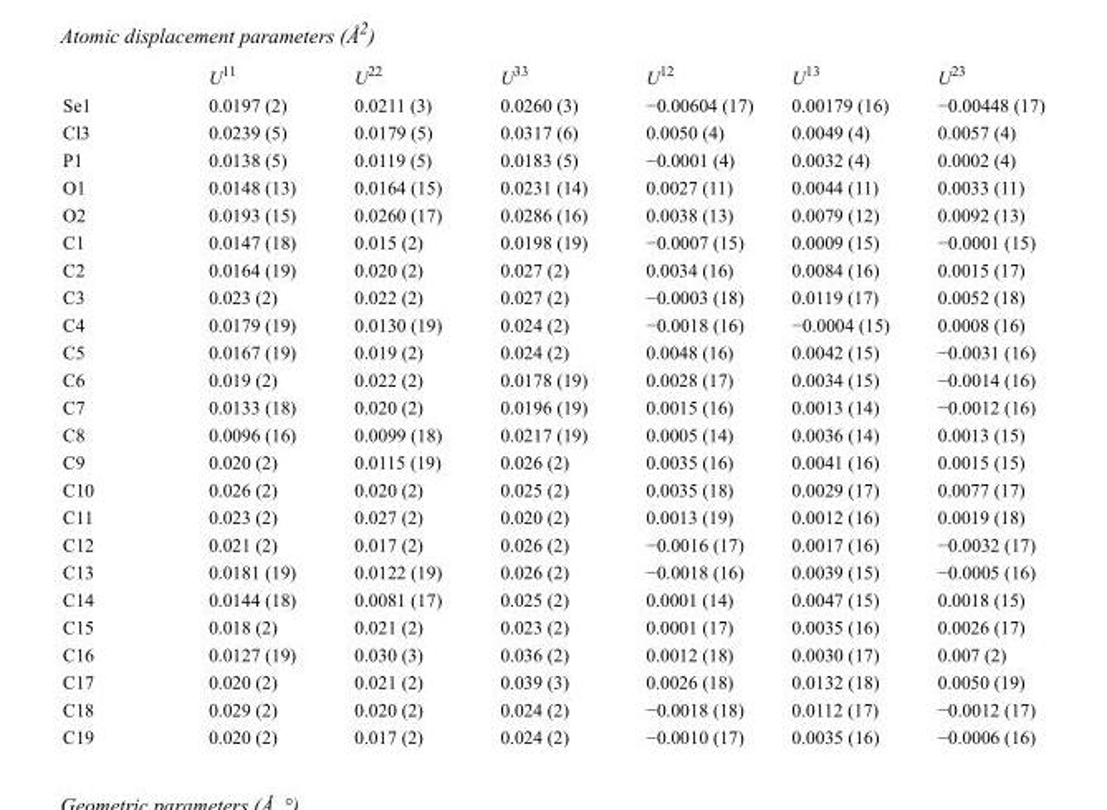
<table><thead><tr><td></td><td>U<sup>11</sup></td><td>U<sup>22</sup></td><td>U<sup>33</sup></td><td>U<sup>12</sup></td><td>U<sup>13</sup></td><td>U<sup>23</sup></td></tr></thead><tbody><tr><td>Se1</td><td>0.0197 (2)</td><td>0.0211 (3)</td><td>0.0260 (3)</td><td>−0.00604 (17)</td><td>0.00179 (16)</td><td>−0.00448 (17)</td></tr><tr><td>Cl3</td><td>0.0239 (5)</td><td>0.0179 (5)</td><td>0.0317 (6)</td><td>0.0050 (4)</td><td>0.0049 (4)</td><td>0.0057 (4)</td></tr><tr><td>P1</td><td>0.0138 (5)</td><td>0.0119 (5)</td><td>0.0183 (5)</td><td>−0.0001 (4)</td><td>0.0032 (4)</td><td>0.0002 (4)</td></tr><tr><td>O1</td><td>0.0148 (13)</td><td>0.0164 (15)</td><td>0.0231 (14)</td><td>0.0027 (11)</td><td>0.0044 (11)</td><td>0.0033 (11)</td></tr><tr><td>O2</td><td>0.0193 (15)</td><td>0.0260 (17)</td><td>0.0286 (16)</td><td>0.0038 (13)</td><td>0.0079 (12)</td><td>0.0092 (13)</td></tr><tr><td>C1</td><td>0.0147 (18)</td><td>0.015 (2)</td><td>0.0198 (19)</td><td>−0.0007 (15)</td><td>0.0009 (15)</td><td>−0.0001 (15)</td></tr><tr><td>C2</td><td>0.0164 (19)</td><td>0.020 (2)</td><td>0.027 (2)</td><td>0.0034 (16)</td><td>0.0084 (16)</td><td>0.0015 (17)</td></tr><tr><td>C3</td><td>0.023 (2)</td><td>0.022 (2)</td><td>0.027 (2)</td><td>−0.0003 (18)</td><td>0.0119 (17)</td><td>0.0052 (18)</td></tr><tr><td>C4</td><td>0.0179 (19)</td><td>0.0130 (19)</td><td>0.024 (2)</td><td>−0.0018 (16)</td><td>−0.0004 (15)</td><td>0.0008 (16)</td></tr><tr><td>C5</td><td>0.0167 (19)</td><td>0.019 (2)</td><td>0.024 (2)</td><td>0.0048 (16)</td><td>0.0042 (15)</td><td>−0.0031 (16)</td></tr><tr><td>C6</td><td>0.019 (2)</td><td>0.022 (2)</td><td>0.0178 (19)</td><td>0.0028 (17)</td><td>0.0034 (15)</td><td>−0.0014 (16)</td></tr><tr><td>C7</td><td>0.0133 (18)</td><td>0.020 (2)</td><td>0.0196 (19)</td><td>0.0015 (16)</td><td>0.0013 (14)</td><td>−0.0012 (16)</td></tr><tr><td>C8</td><td>0.0096 (16)</td><td>0.0099 (18)</td><td>0.0217 (19)</td><td>0.0005 (14)</td><td>0.0036 (14)</td><td>0.0013 (15)</td></tr><tr><td>C9</td><td>0.020 (2)</td><td>0.0115 (19)</td><td>0.026 (2)</td><td>0.0035 (16)</td><td>0.0041 (16)</td><td>0.0015 (15)</td></tr><tr><td>C10</td><td>0.026 (2)</td><td>0.020 (2)</td><td>0.025 (2)</td><td>0.0035 (18)</td><td>0.0029 (17)</td><td>0.0077 (17)</td></tr><tr><td>C11</td><td>0.023 (2)</td><td>0.027 (2)</td><td>0.020 (2)</td><td>0.0013 (19)</td><td>0.0012 (16)</td><td>0.0019 (18)</td></tr><tr><td>C12</td><td>0.021 (2)</td><td>0.017 (2)</td><td>0.026 (2)</td><td>−0.0016 (17)</td><td>0.0017 (16)</td><td>−0.0032 (17)</td></tr><tr><td>C13</td><td>0.0181 (19)</td><td>0.0122 (19)</td><td>0.026 (2)</td><td>−0.0018 (16)</td><td>0.0039 (15)</td><td>−0.0005 (16)</td></tr><tr><td>C14</td><td>0.0144 (18)</td><td>0.0081 (17)</td><td>0.025 (2)</td><td>0.0001 (14)</td><td>0.0047 (15)</td><td>0.0018 (15)</td></tr><tr><td>C15</td><td>0.018 (2)</td><td>0.021 (2)</td><td>0.023 (2)</td><td>0.0001 (17)</td><td>0.0035 (16)</td><td>0.0026 (17)</td></tr><tr><td>C16</td><td>0.0127 (19)</td><td>0.030 (3)</td><td>0.036 (2)</td><td>0.0012 (18)</td><td>0.0030 (17)</td><td>0.007 (2)</td></tr><tr><td>C17</td><td>0.020 (2)</td><td>0.021 (2)</td><td>0.039 (3)</td><td>0.0026 (18)</td><td>0.0132 (18)</td><td>0.0050 (19)</td></tr><tr><td>C18</td><td>0.029 (2)</td><td>0.020 (2)</td><td>0.024 (2)</td><td>−0.0018 (18)</td><td>0.0112 (17)</td><td>−0.0012 (17)</td></tr><tr><td>C19</td><td>0.020 (2)</td><td>0.017 (2)</td><td>0.024 (2)</td><td>−0.0010 (17)</td><td>0.0035 (16)</td><td>−0.0006 (16)</td></tr></tbody></table>